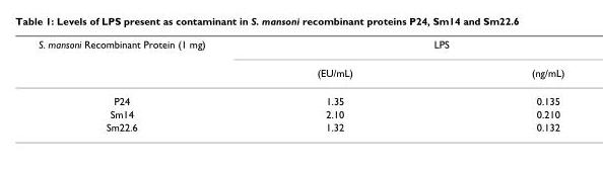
<table><thead><tr><td rowspan="2">S. mansoni Recombinant Protein (1 mg)</td><td colspan="2">LPS</td></tr><tr><td>(EU/mL)</td><td>(ng/mL)</td></tr></thead><tbody><tr><td>P24</td><td>1.35</td><td>0.135</td></tr><tr><td>Sm14</td><td>2.10</td><td>0.210</td></tr><tr><td>Sm22.6</td><td>1.32</td><td>0.132</td></tr></tbody></table>